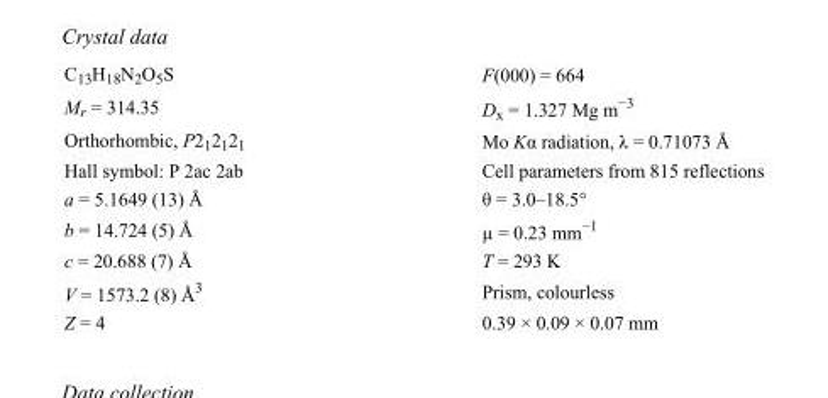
<table><tbody><tr><td>C<sub>13</sub>H<sub>18</sub>N<sub>2</sub>O<sub>5</sub>S</td><td>F(000) = 664</td></tr><tr><td>M<sub>r</sub> = 314.35</td><td>D<sub>x</sub> = 1.327 Mg m<sup>−3</sup></td></tr><tr><td>Orthorhombic, P2<sub>1</sub>2<sub>1</sub>2<sub>1</sub></td><td>Mo Kα radiation, λ = 0.71073 Å</td></tr><tr><td>Hall symbol: P 2ac 2ab</td><td>Cell parameters from 815 reflections</td></tr><tr><td>a = 5.1649 (13) Å</td><td>θ = 3.0–18.5°</td></tr><tr><td>b = 14.724 (5) Å</td><td>µ = 0.23 mm<sup>−1</sup></td></tr><tr><td>c = 20.688 (7) Å</td><td>T = 293 K</td></tr><tr><td>V = 1573.2 (8) Å<sup>3</sup></td><td>Prism, colourless</td></tr><tr><td>Z = 4</td><td>0.39 × 0.09 × 0.07 mm</td></tr></tbody></table>